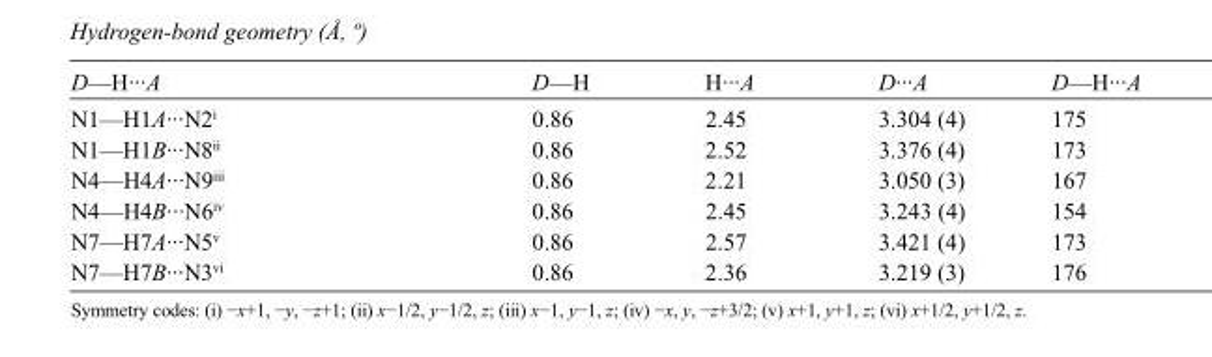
<table><tbody><tr><td>D—H···A</td><td>D—H</td><td>H···A</td><td>D···A</td><td>D—H···A</td></tr><tr><td>N1—H1A···N2<sup>i</sup></td><td>0.86</td><td>2.45</td><td>3.304 (4)</td><td>175</td></tr><tr><td>N1—H1B···N8<sup>ii</sup></td><td>0.86</td><td>2.52</td><td>3.376 (4)</td><td>173</td></tr><tr><td>N4—H4A···N9<sup>iii</sup></td><td>0.86</td><td>2.21</td><td>3.050 (3)</td><td>167</td></tr><tr><td>N4—H4B···N6<sup>iv</sup></td><td>0.86</td><td>2.45</td><td>3.243 (4)</td><td>154</td></tr><tr><td>N7—H7A···N5<sup>v</sup></td><td>0.86</td><td>2.57</td><td>3.421 (4)</td><td>173</td></tr><tr><td>N7—H7B···N3<sup>vi</sup></td><td>0.86</td><td>2.36</td><td>3.219 (3)</td><td>176</td></tr></tbody></table>